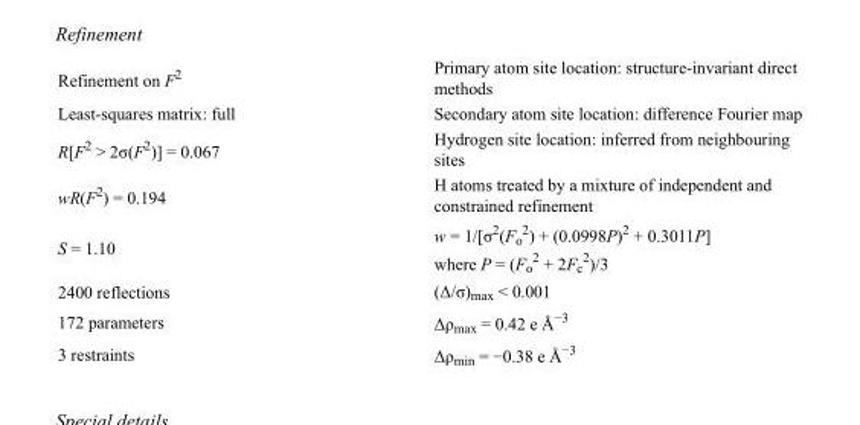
<table><tbody><tr><td>Refinement on F<sup>2</sup></td><td>Primary atom site location: structure-invariant direct methods</td></tr><tr><td>Least-squares matrix: full</td><td>Secondary atom site location: difference Fourier map</td></tr><tr><td>R[F<sup>2</sup> &gt; 2σ(F<sup>2</sup>)] = 0.067</td><td>Hydrogen site location: inferred from neighbouring sites</td></tr><tr><td>wR(F<sup>2</sup>) = 0.194</td><td>H atoms treated by a mixture of independent and constrained refinement</td></tr><tr><td>S = 1.10</td><td>w = 1/[σ<sup>2</sup>(F<sub>o</sub> <sup>2</sup>) + (0.0998P)<sup>2</sup> + 0.3011P] where P = (F<sub>o</sub> <sup>2</sup> + 2F<sub>c</sub> <sup>2</sup>)/3</td></tr><tr><td>2400 reflections</td><td>(Δ/σ)<sub>max</sub> &lt; 0.001</td></tr><tr><td>172 parameters</td><td>Δρ<sub>max</sub> = 0.42 e Å<sup>−3</sup></td></tr><tr><td>3 restraints</td><td>Δρ<sub>min</sub> = −0.38 e Å<sup>−3</sup></td></tr></tbody></table>